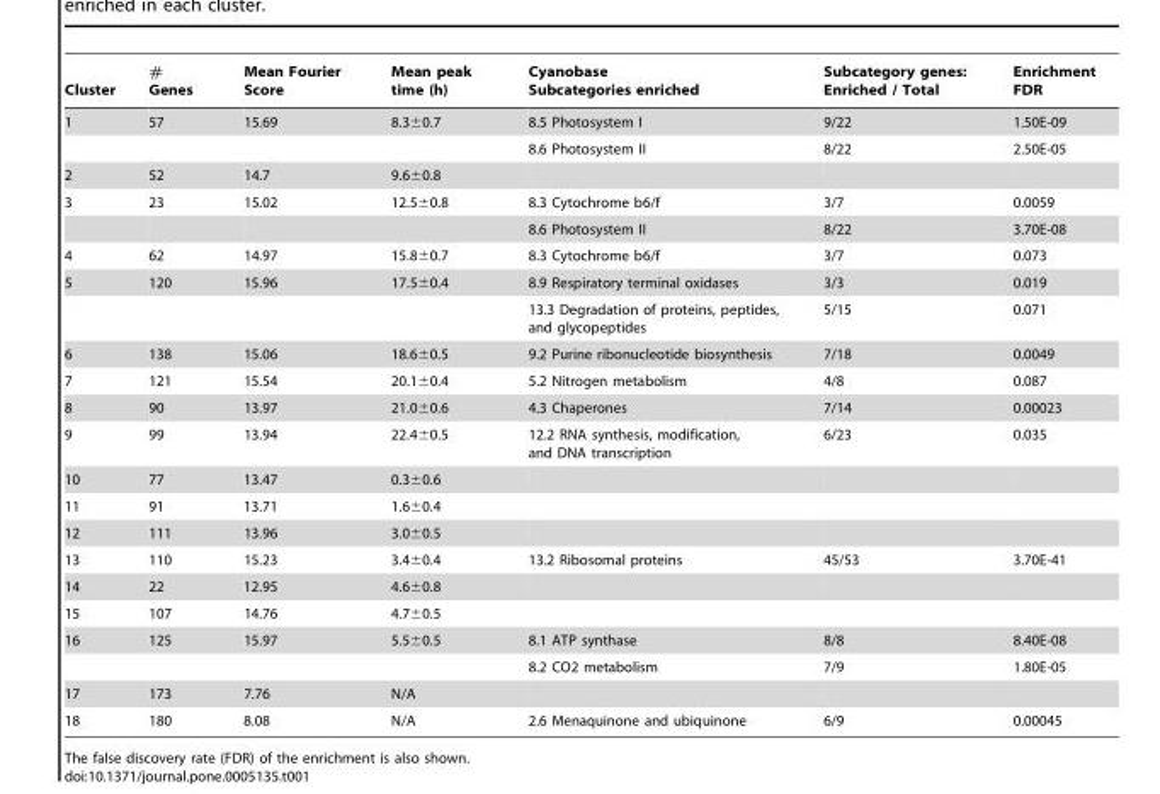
<table><thead><tr><td>Cluster</td><td># Genes</td><td>Mean Fourier Score</td><td>Mean peak time (h)</td><td>Cyanobase Subcategories enriched</td><td>Subcategory genes: Enriched / Total</td><td>Enrichment FDR</td></tr></thead><tbody><tr><td rowspan="2">1</td><td>57</td><td>15.69</td><td>8.3±0.7</td><td>8.5 Photosystem I</td><td>9/22</td><td>1.50E-09</td></tr><tr><td></td><td></td><td></td><td>8.6 Photosystem II</td><td>8/22</td><td>2.50E-05</td></tr><tr><td>2</td><td>52</td><td>14.7</td><td>9.6±0.8</td><td></td><td></td><td></td></tr><tr><td rowspan="2">3</td><td>23</td><td>15.02</td><td>12.5±0.8</td><td>8.3 Cytochrome b6/f</td><td>3/7</td><td>0.0059</td></tr><tr><td></td><td></td><td></td><td>8.6 Photosystem II</td><td>8/22</td><td>3.70E-08</td></tr><tr><td>4</td><td>62</td><td>14.97</td><td>15.8±0.7</td><td>8.3 Cytochrome b6/f</td><td>3/7</td><td>0.073</td></tr><tr><td rowspan="2">5</td><td>120</td><td>15.96</td><td>17.5±0.4</td><td>8.9 Respiratory terminal oxidases</td><td>3/3</td><td>0.019</td></tr><tr><td></td><td></td><td></td><td>13.3 Degradation of proteins, peptides, and glycopeptides</td><td>5/15</td><td>0.071</td></tr><tr><td>6</td><td>138</td><td>15.06</td><td>18.6±0.5</td><td>9.2 Purine ribonucleotide biosynthesis</td><td>7/18</td><td>0.0049</td></tr><tr><td>7</td><td>121</td><td>15.54</td><td>20.1±0.4</td><td>5.2 Nitrogen metabolism</td><td>4/8</td><td>0.087</td></tr><tr><td>8</td><td>90</td><td>13.97</td><td>21.0±0.6</td><td>4.3 Chaperones</td><td>7/14</td><td>0.00023</td></tr><tr><td>9</td><td>99</td><td>13.94</td><td>22.4±0.5</td><td>12.2 RNA synthesis, modification, and DNA transcription</td><td>6/23</td><td>0.035</td></tr><tr><td>10</td><td>77</td><td>13.47</td><td>0.3±0.6</td><td></td><td></td><td></td></tr><tr><td>11</td><td>91</td><td>13.71</td><td>1.6±0.4</td><td></td><td></td><td></td></tr><tr><td>12</td><td>111</td><td>13.96</td><td>3.0±0.5</td><td></td><td></td><td></td></tr><tr><td>13</td><td>110</td><td>15.23</td><td>3.4±0.4</td><td>13.2 Ribosomal proteins</td><td>45/53</td><td>3.70E-41</td></tr><tr><td>14</td><td>22</td><td>12.95</td><td>4.6±0.8</td><td></td><td></td><td></td></tr><tr><td>15</td><td>107</td><td>14.76</td><td>4.7±0.5</td><td></td><td></td><td></td></tr><tr><td rowspan="2">16</td><td>125</td><td>15.97</td><td>5.5±0.5</td><td>8.1 ATP synthase</td><td>8/8</td><td>8.40E-08</td></tr><tr><td></td><td></td><td></td><td>8.2 CO2 metabolism</td><td>7/9</td><td>1.80E-05</td></tr><tr><td>17</td><td>173</td><td>7.76</td><td>N/A</td><td></td><td></td><td></td></tr><tr><td>18</td><td>180</td><td>8.08</td><td>N/A</td><td>2.6 Menaquinone and ubiquinone</td><td>6/9</td><td>0.00045</td></tr></tbody></table>